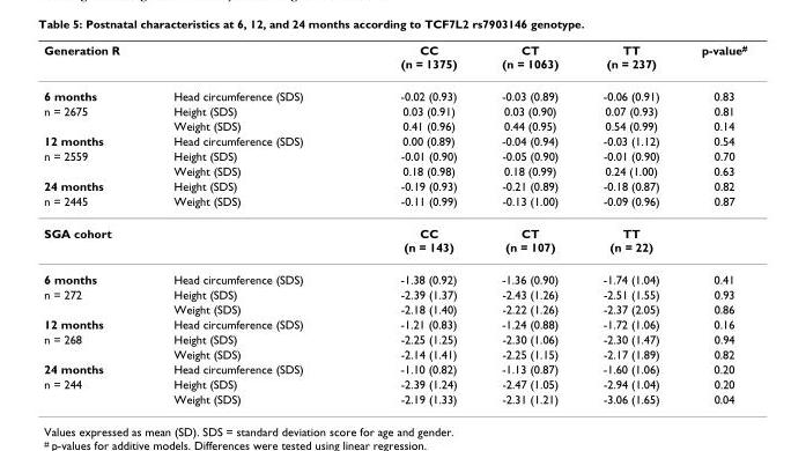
<table><thead><tr><td>Generation R</td><td></td><td>CC (n = 1375)</td><td>CT (n = 1063)</td><td>TT (n = 237)</td><td>p-value<sup>#</sup></td></tr></thead><tbody><tr><td>6 months</td><td>Head circumference (SDS)</td><td>-0.02 (0.93)</td><td>-0.03 (0.89)</td><td>-0.06 (0.91)</td><td>0.83</td></tr><tr><td rowspan="2">n = 2675</td><td>Height (SDS)</td><td>0.03 (0.91)</td><td>0.03 (0.90)</td><td>0.07 (0.93)</td><td>0.81</td></tr><tr><td>Weight (SDS)</td><td>0.41 (0.96)</td><td>0.44 (0.95)</td><td>0.54 (0.99)</td><td>0.14</td></tr><tr><td>12 months</td><td>Head circumference (SDS)</td><td>0.00 (0.89)</td><td>-0.04 (0.94)</td><td>-0.03 (1.12)</td><td>0.54</td></tr><tr><td rowspan="2">n = 2559</td><td>Height (SDS)</td><td>-0.01 (0.90)</td><td>-0.05 (0.90)</td><td>-0.01 (0.90)</td><td>0.70</td></tr><tr><td>Weight (SDS)</td><td>0.18 (0.98)</td><td>0.18 (0.99)</td><td>0.24 (1.00)</td><td>0.63</td></tr><tr><td>24 months</td><td>Height (SDS)</td><td>-0.19 (0.93)</td><td>-0.21 (0.89)</td><td>-0.18 (0.87)</td><td>0.82</td></tr><tr><td>n = 2445</td><td>Weight (SDS)</td><td>-0.11 (0.99)</td><td>-0.13 (1.00)</td><td>-0.09 (0.96)</td><td>0.87</td></tr><tr><td>SGA cohort</td><td></td><td>CC (n = 143)</td><td>CT (n = 107)</td><td>TT (n = 22)</td><td></td></tr><tr><td>6 months</td><td>Head circumference (SDS)</td><td>-1.38 (0.92)</td><td>-1.36 (0.90)</td><td>-1.74 (1.04)</td><td>0.41</td></tr><tr><td rowspan="2">n = 272</td><td>Height (SDS)</td><td>-2.39 (1.37)</td><td>-2.43 (1.26)</td><td>-2.51 (1.55)</td><td>0.93</td></tr><tr><td>Weight (SDS)</td><td>-2.18 (1.40)</td><td>-2.22 (1.26)</td><td>-2.37 (2.05)</td><td>0.86</td></tr><tr><td>12 months</td><td>Head circumference (SDS)</td><td>-1.21 (0.83)</td><td>-1.24 (0.88)</td><td>-1.72 (1.06)</td><td>0.16</td></tr><tr><td rowspan="2">n = 268</td><td>Height (SDS)</td><td>-2.25 (1.25)</td><td>-2.30 (1.06)</td><td>-2.30 (1.47)</td><td>0.94</td></tr><tr><td>Weight (SDS)</td><td>-2.14 (1.41)</td><td>-2.25 (1.15)</td><td>-2.17 (1.89)</td><td>0.82</td></tr><tr><td>24 months</td><td>Head circumference (SDS)</td><td>-1.10 (0.82)</td><td>-1.13 (0.87)</td><td>-1.60 (1.06)</td><td>0.20</td></tr><tr><td rowspan="2">n = 244</td><td>Height (SDS)</td><td>-2.39 (1.24)</td><td>-2.47 (1.05)</td><td>-2.94 (1.04)</td><td>0.20</td></tr><tr><td>Weight (SDS)</td><td>-2.19 (1.33)</td><td>-2.31 (1.21)</td><td>-3.06 (1.65)</td><td>0.04</td></tr></tbody></table>